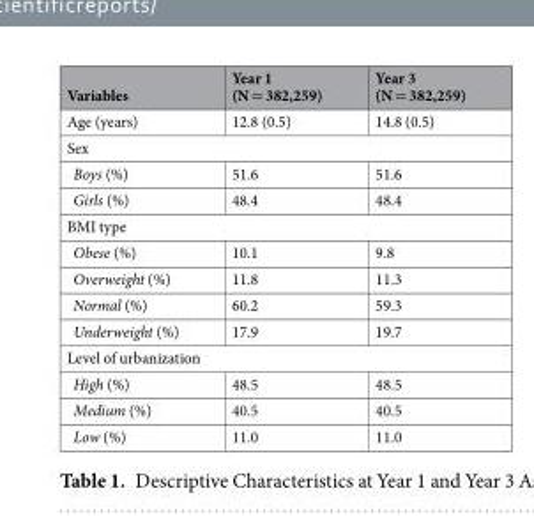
<table><thead><tr><td>Variables</td><td>Year 1 (N = 382,259)</td><td>Year 3 (N = 382,259)</td></tr></thead><tbody><tr><td>Age (years)</td><td>12.8 (0.5)</td><td>14.8 (0.5)</td></tr><tr><td colspan="3">Sex</td></tr><tr><td>Boys (%)</td><td>51.6</td><td>51.6</td></tr><tr><td>Girls (%)</td><td>48.4</td><td>48.4</td></tr><tr><td colspan="3">BMI type</td></tr><tr><td>Obese (%)</td><td>10.1</td><td>9.8</td></tr><tr><td>Overweight (%)</td><td>11.8</td><td>11.3</td></tr><tr><td>Normal (%)</td><td>60.2</td><td>59.3</td></tr><tr><td>Underweight (%)</td><td>17.9</td><td>19.7</td></tr><tr><td colspan="3">Level of urbanization</td></tr><tr><td>High (%)</td><td>48.5</td><td>48.5</td></tr><tr><td>Medium (%)</td><td>40.5</td><td>40.5</td></tr><tr><td>Low (%)</td><td>11.0</td><td>11.0</td></tr></tbody></table>